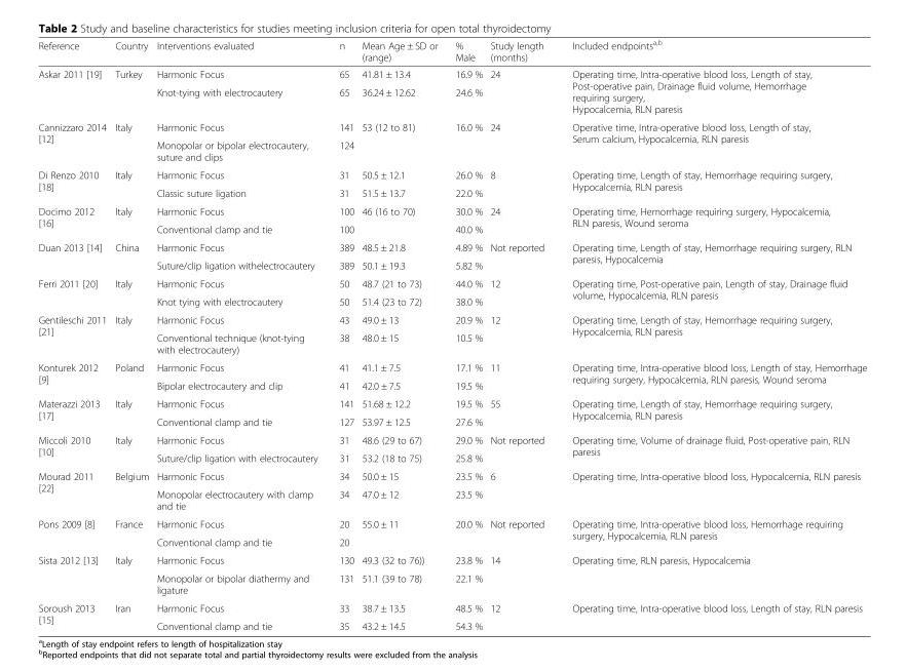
<table><thead><tr><td>Reference</td><td>Country</td><td>Interventions evaluated</td><td>n</td><td>Mean Age ± SD or (range)</td><td>% Male</td><td>Study length (months)</td><td>Included endpoints<sup>a,b</sup></td></tr></thead><tbody><tr><td rowspan="2">Askar 2011 [19]</td><td rowspan="2">Turkey</td><td>Harmonic Focus</td><td>65</td><td>41.81 ± 13.4</td><td>16.9 %</td><td rowspan="2">24</td><td rowspan="2">Operating time, Intra-operative blood loss, Length of stay, Post-operative pain, Drainage fluid volume, Hemorrhage requiring surgery, Hypocalcemia, RLN paresis</td></tr><tr><td>Knot-tying with electrocautery</td><td>65</td><td>36.24 ± 12.62</td><td>24.6 %</td></tr><tr><td rowspan="2">Cannizzaro 2014 [12]</td><td rowspan="2">Italy</td><td>Harmonic Focus</td><td>141</td><td rowspan="2">53 (12 to 81)</td><td rowspan="2">16.0 %</td><td rowspan="2">24</td><td rowspan="2">Operative time, Intra-operative blood loss, Length of stay, Serum calcium, Hypocalcemia, RLN paresis</td></tr><tr><td>Monopolar or bipolar electrocautery, suture and clips</td><td>124</td></tr><tr><td rowspan="2">Di Renzo 2010 [18]</td><td rowspan="2">Italy</td><td>Harmonic Focus</td><td>31</td><td>50.5 ± 12.1</td><td>26.0 %</td><td rowspan="2">8</td><td rowspan="2">Operating time, Length of stay, Hemorrhage requiring surgery, Hypocalcemia, RLN paresis</td></tr><tr><td>Classic suture ligation</td><td>31</td><td>51.5 ± 13.7</td><td>22.0 %</td></tr><tr><td rowspan="2">Docimo 2012 [16]</td><td rowspan="2">Italy</td><td>Harmonic Focus</td><td>100</td><td rowspan="2">46 (16 to 70)</td><td>30.0 %</td><td rowspan="2">24</td><td rowspan="2">Operating time, Hemorrhage requiring surgery, Hypocalcemia, RLN paresis, Wound seroma</td></tr><tr><td>Conventional clamp and tie</td><td>100</td><td>40.0 %</td></tr><tr><td rowspan="2">Duan 2013 [14]</td><td rowspan="2">China</td><td>Harmonic Focus</td><td>389</td><td>48.5 ± 21.8</td><td>4.89 %</td><td rowspan="2">Not reported</td><td rowspan="2">Operating time, Length of stay, Hemorrhage requiring surgery, RLN paresis, Hypocalcemia</td></tr><tr><td>Suture/clip ligation withelectrocautery</td><td>389</td><td>50.1 ± 19.3</td><td>5.82 %</td></tr><tr><td rowspan="2">Ferri 2011 [20]</td><td rowspan="2">Italy</td><td>Harmonic Focus</td><td>50</td><td>48.7 (21 to 73)</td><td>44.0 %</td><td rowspan="2">12</td><td rowspan="2">Operating time, Post-operative pain, Length of stay, Drainage fluid volume, Hypocalcemia, RLN paresis</td></tr><tr><td>Knot tying with electrocautery</td><td>50</td><td>51.4 (23 to 72)</td><td>38.0 %</td></tr><tr><td rowspan="2">Gentileschi 2011 [21]</td><td rowspan="2">Italy</td><td>Harmonic Focus</td><td>43</td><td>49.0 ± 13</td><td>20.9 %</td><td rowspan="2">12</td><td rowspan="2">Operating time, Length of stay, Hemorrhage requiring surgery, Hypocalcemia, RLN paresis</td></tr><tr><td>Conventional technique (knot-tying with electrocautery)</td><td>38</td><td>48.0 ± 15</td><td>10.5 %</td></tr><tr><td rowspan="2">Konturek 2012 [9]</td><td rowspan="2">Poland</td><td>Harmonic Focus</td><td>41</td><td>41.1 ± 7.5</td><td>17.1 %</td><td rowspan="2">11</td><td rowspan="2">Operating time, Intra-operative blood loss, Length of stay, Hemorrhage requiring surgery, Hypocalcemia, RLN paresis, Wound seroma</td></tr><tr><td>Bipolar electrocautery and clip</td><td>41</td><td>42.0 ± 7.5</td><td>19.5 %</td></tr><tr><td rowspan="2">Materazzi 2013 [17]</td><td rowspan="2">Italy</td><td>Harmonic Focus</td><td>141</td><td>51.68 ± 12.2</td><td>19.5 %</td><td rowspan="2">55</td><td rowspan="2">Operating time, Length of stay, Hemorrhage requiring surgery, Hypocalcemia, RLN paresis</td></tr><tr><td>Conventional clamp and tie</td><td>127</td><td>53.97 ± 12.5</td><td>27.6 %</td></tr><tr><td rowspan="2">Miccoli 2010 [10]</td><td rowspan="2">Italy</td><td>Harmonic Focus</td><td>31</td><td>48.6 (29 to 67)</td><td>29.0 %</td><td rowspan="2">Not reported</td><td rowspan="2">Operating time, Volume of drainage fluid, Post-operative pain, RLN paresis</td></tr><tr><td>Suture/clip ligation with electrocautery</td><td>31</td><td>53.2 (18 to 75)</td><td>25.8 %</td></tr><tr><td rowspan="2">Mourad 2011 [22]</td><td rowspan="2">Belgium</td><td>Harmonic Focus</td><td>34</td><td>50.0 ± 15</td><td>23.5 %</td><td rowspan="2">6</td><td rowspan="2">Operating time, Intra-operative blood loss, Hypocalcemia, RLN paresis</td></tr><tr><td>Monopolar electrocautery with clamp and tie</td><td>34</td><td>47.0 ± 12</td><td>23.5 %</td></tr><tr><td rowspan="2">Pons 2009 [8]</td><td rowspan="2">France</td><td>Harmonic Focus</td><td>20</td><td rowspan="2">55.0 ± 11</td><td rowspan="2">20.0 %</td><td rowspan="2">Not reported</td><td rowspan="2">Operating time, Intra-operative blood loss, Hemorrhage requiring surgery, Hypocalcemia, RLN paresis</td></tr><tr><td>Conventional clamp and tie</td><td>20</td></tr><tr><td rowspan="2">Sista 2012 [13]</td><td rowspan="2">Italy</td><td>Harmonic Focus</td><td>130</td><td>49.3 (32 to 76))</td><td>23.8 %</td><td rowspan="2">14</td><td rowspan="2">Operating time, RLN paresis, Hypocalcemia</td></tr><tr><td>Monopolar or bipolar diathermy and ligature</td><td>131</td><td>51.1 (39 to 78)</td><td>22.1 %</td></tr><tr><td rowspan="2">Soroush 2013 [15]</td><td rowspan="2">Iran</td><td>Harmonic Focus</td><td>33</td><td>38.7 ± 13.5</td><td>48.5 %</td><td rowspan="2">12</td><td rowspan="2">Operating time, Intra-operative blood loss, Length of stay, RLN paresis</td></tr><tr><td>Conventional clamp and tie</td><td>35</td><td>43.2 ± 14.5</td><td>54.3 %</td></tr></tbody></table>